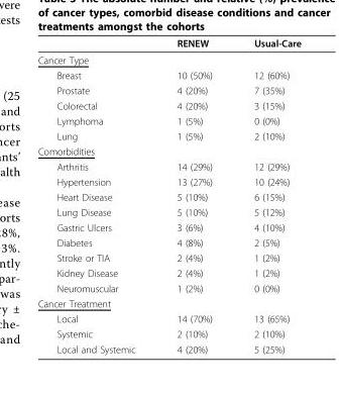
<table><thead><tr><td></td><td>RENEW</td><td>Usual-Care</td></tr></thead><tbody><tr><td colspan="3">Cancer Type</td></tr><tr><td>Breast</td><td>10 (50%)</td><td>12 (60%)</td></tr><tr><td>Prostate</td><td>4 (20%)</td><td>7 (35%)</td></tr><tr><td>Colorectal</td><td>4 (20%)</td><td>3 (15%)</td></tr><tr><td>Lymphoma</td><td>1 (5%)</td><td>0 (0%)</td></tr><tr><td>Lung</td><td>1 (5%)</td><td>2 (10%)</td></tr><tr><td colspan="3">Comorbidities</td></tr><tr><td>Arthritis</td><td>14 (29%)</td><td>12 (29%)</td></tr><tr><td>Hypertension</td><td>13 (27%)</td><td>10 (24%)</td></tr><tr><td>Heart Disease</td><td>5 (10%)</td><td>6 (15%)</td></tr><tr><td>Lung Disease</td><td>5 (10%)</td><td>5 (12%)</td></tr><tr><td>Gastric Ulcers</td><td>3 (6%)</td><td>4 (10%)</td></tr><tr><td>Diabetes</td><td>4 (8%)</td><td>2 (5%)</td></tr><tr><td>Stroke or TIA</td><td>2 (4%)</td><td>1 (2%)</td></tr><tr><td>Kidney Disease</td><td>2 (4%)</td><td>1 (2%)</td></tr><tr><td>Neuromuscular</td><td>1 (2%)</td><td>0 (0%)</td></tr><tr><td colspan="3">Cancer Treatment</td></tr><tr><td>Local</td><td>14 (70%)</td><td>13 (65%)</td></tr><tr><td>Systemic</td><td>2 (10%)</td><td>2 (10%)</td></tr><tr><td>Local and Systemic</td><td>4 (20%)</td><td>5 (25%)</td></tr></tbody></table>